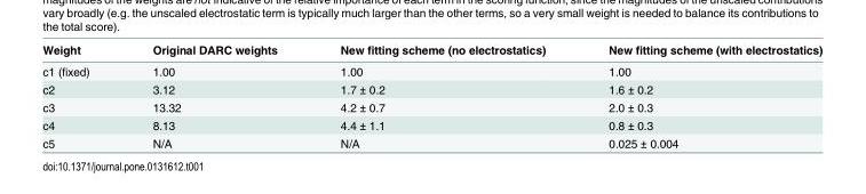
<table><thead><tr><td>Weight</td><td>Original DARC weights</td><td>New fitting scheme (no electrostatics)</td><td>New fitting scheme (with electrostatics)</td></tr></thead><tbody><tr><td>c1 (fixed)</td><td>1.00</td><td>1.00</td><td>1.00</td></tr><tr><td>c2</td><td>3.12</td><td>1.7 ± 0.2</td><td>1.6 ± 0.2</td></tr><tr><td>c3</td><td>13.32</td><td>4.2 ± 0.7</td><td>2.0 ± 0.3</td></tr><tr><td>c4</td><td>8.13</td><td>4.4 ± 1.1</td><td>0.8 ± 0.3</td></tr><tr><td>c5</td><td>N/A</td><td>N/A</td><td>0.025 ± 0.004</td></tr></tbody></table>